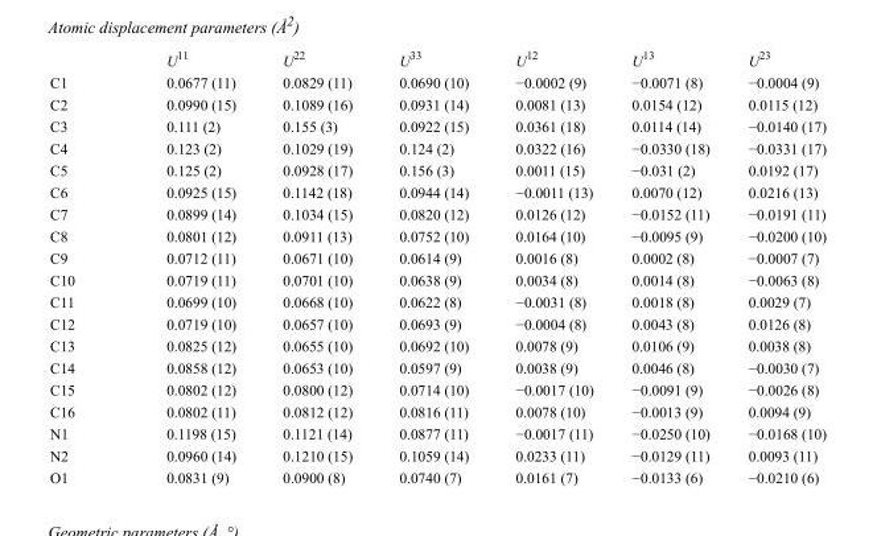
<table><thead><tr><td></td><td>U<sup>11</sup></td><td>U<sup>22</sup></td><td>U<sup>33</sup></td><td>U<sup>12</sup></td><td>U<sup>13</sup></td><td>U<sup>23</sup></td></tr></thead><tbody><tr><td>C1</td><td>0.0677 (11)</td><td>0.0829 (11)</td><td>0.0690 (10)</td><td>−0.0002 (9)</td><td>−0.0071 (8)</td><td>−0.0004 (9)</td></tr><tr><td>C2</td><td>0.0990 (15)</td><td>0.1089 (16)</td><td>0.0931 (14)</td><td>0.0081 (13)</td><td>0.0154 (12)</td><td>0.0115 (12)</td></tr><tr><td>C3</td><td>0.111 (2)</td><td>0.155 (3)</td><td>0.0922 (15)</td><td>0.0361 (18)</td><td>0.0114 (14)</td><td>−0.0140 (17)</td></tr><tr><td>C4</td><td>0.123 (2)</td><td>0.1029 (19)</td><td>0.124 (2)</td><td>0.0322 (16)</td><td>−0.0330 (18)</td><td>−0.0331 (17)</td></tr><tr><td>C5</td><td>0.125 (2)</td><td>0.0928 (17)</td><td>0.156 (3)</td><td>0.0011 (15)</td><td>−0.031 (2)</td><td>0.0192 (17)</td></tr><tr><td>C6</td><td>0.0925 (15)</td><td>0.1142 (18)</td><td>0.0944 (14)</td><td>−0.0011 (13)</td><td>0.0070 (12)</td><td>0.0216 (13)</td></tr><tr><td>C7</td><td>0.0899 (14)</td><td>0.1034 (15)</td><td>0.0820 (12)</td><td>0.0126 (12)</td><td>−0.0152 (11)</td><td>−0.0191 (11)</td></tr><tr><td>C8</td><td>0.0801 (12)</td><td>0.0911 (13)</td><td>0.0752 (10)</td><td>0.0164 (10)</td><td>−0.0095 (9)</td><td>−0.0200 (10)</td></tr><tr><td>C9</td><td>0.0712 (11)</td><td>0.0671 (10)</td><td>0.0614 (9)</td><td>0.0016 (8)</td><td>0.0002 (8)</td><td>−0.0007 (7)</td></tr><tr><td>C10</td><td>0.0719 (11)</td><td>0.0701 (10)</td><td>0.0638 (9)</td><td>0.0034 (8)</td><td>0.0014 (8)</td><td>−0.0063 (8)</td></tr><tr><td>C11</td><td>0.0699 (10)</td><td>0.0668 (10)</td><td>0.0622 (8)</td><td>−0.0031 (8)</td><td>0.0018 (8)</td><td>0.0029 (7)</td></tr><tr><td>C12</td><td>0.0719 (10)</td><td>0.0657 (10)</td><td>0.0693 (9)</td><td>−0.0004 (8)</td><td>0.0043 (8)</td><td>0.0126 (8)</td></tr><tr><td>C13</td><td>0.0825 (12)</td><td>0.0655 (10)</td><td>0.0692 (10)</td><td>0.0078 (9)</td><td>0.0106 (9)</td><td>0.0038 (8)</td></tr><tr><td>C14</td><td>0.0858 (12)</td><td>0.0653 (10)</td><td>0.0597 (9)</td><td>0.0038 (9)</td><td>0.0046 (8)</td><td>−0.0030 (7)</td></tr><tr><td>C15</td><td>0.0802 (12)</td><td>0.0800 (12)</td><td>0.0714 (10)</td><td>−0.0017 (10)</td><td>−0.0091 (9)</td><td>−0.0026 (8)</td></tr><tr><td>C16</td><td>0.0802 (11)</td><td>0.0812 (12)</td><td>0.0816 (11)</td><td>0.0078 (10)</td><td>−0.0013 (9)</td><td>0.0094 (9)</td></tr><tr><td>N1</td><td>0.1198 (15)</td><td>0.1121 (14)</td><td>0.0877 (11)</td><td>−0.0017 (11)</td><td>−0.0250 (10)</td><td>−0.0168 (10)</td></tr><tr><td>N2</td><td>0.0960 (14)</td><td>0.1210 (15)</td><td>0.1059 (14)</td><td>0.0233 (11)</td><td>−0.0129 (11)</td><td>0.0093 (11)</td></tr><tr><td>O1</td><td>0.0831 (9)</td><td>0.0900 (8)</td><td>0.0740 (7)</td><td>0.0161 (7)</td><td>−0.0133 (6)</td><td>−0.0210 (6)</td></tr></tbody></table>